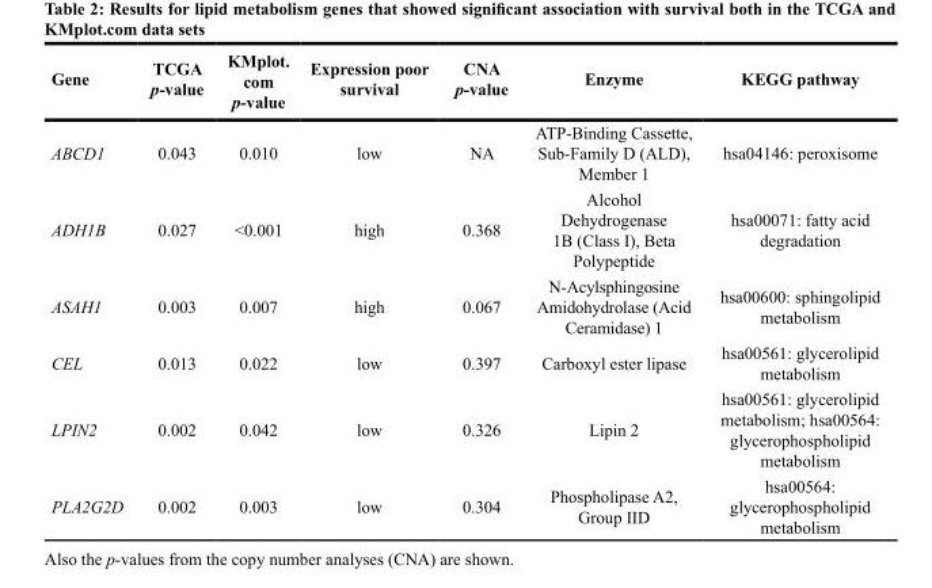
<table><thead><tr><td>Gene</td><td>TCGA p-value</td><td>KMplot. com p-value</td><td>Expression poor survival</td><td>CNA p-value</td><td>Enzyme</td><td>KEGG pathway</td></tr></thead><tbody><tr><td>ABCD1</td><td>0.043</td><td>0.010</td><td>low</td><td>NA</td><td>ATP-Binding Cassette, Sub-Family D (ALD), Member 1</td><td>hsa04146: peroxisome</td></tr><tr><td>ADH1B</td><td>0.027</td><td>&lt;0.001</td><td>high</td><td>0.368</td><td>Alcohol Dehydrogenase 1B (Class I), Beta Polypeptide</td><td>hsa00071: fatty acid degradation</td></tr><tr><td>ASAH1</td><td>0.003</td><td>0.007</td><td>high</td><td>0.067</td><td>N-Acylsphingosine Amidohydrolase (Acid Ceramidase) 1</td><td>hsa00600: sphingolipid metabolism</td></tr><tr><td>CEL</td><td>0.013</td><td>0.022</td><td>low</td><td>0.397</td><td>Carboxyl ester lipase</td><td>hsa00561: glycerolipid metabolism</td></tr><tr><td>LPIN2</td><td>0.002</td><td>0.042</td><td>low</td><td>0.326</td><td>Lipin 2</td><td>hsa00561: glycerolipid metabolism; hsa00564: glycerophospholipid metabolism</td></tr><tr><td>PLA2G2D</td><td>0.002</td><td>0.003</td><td>low</td><td>0.304</td><td>Phospholipase A2, Group IID</td><td>hsa00564: glycerophospholipid metabolism</td></tr></tbody></table>